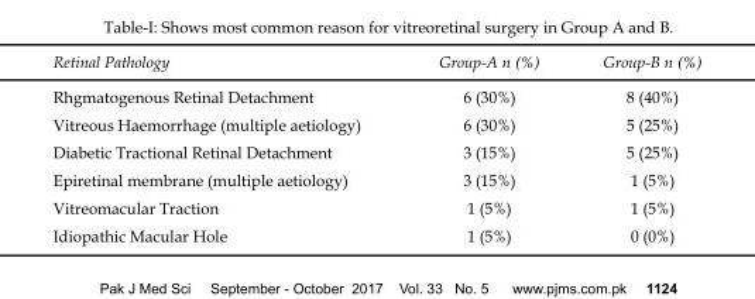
<table><thead><tr><td>Retinal Pathology</td><td>Group-A n (%)</td><td>Group-B n (%)</td></tr></thead><tbody><tr><td>Rhgmatogenous Retinal Detachment</td><td>6 (30%)</td><td>8 (40%)</td></tr><tr><td>Vitreous Haemorrhage (multiple aetiology)</td><td>6 (30%)</td><td>5 (25%)</td></tr><tr><td>Diabetic Tractional Retinal Detachment</td><td>3 (15%)</td><td>5 (25%)</td></tr><tr><td>Epiretinal membrane (multiple aetiology)</td><td>3 (15%)</td><td>1 (5%)</td></tr><tr><td>Vitreomacular Traction</td><td>1 (5%)</td><td>1 (5%)</td></tr><tr><td>Idiopathic Macular Hole</td><td>1 (5%)</td><td>0 (0%)</td></tr></tbody></table>